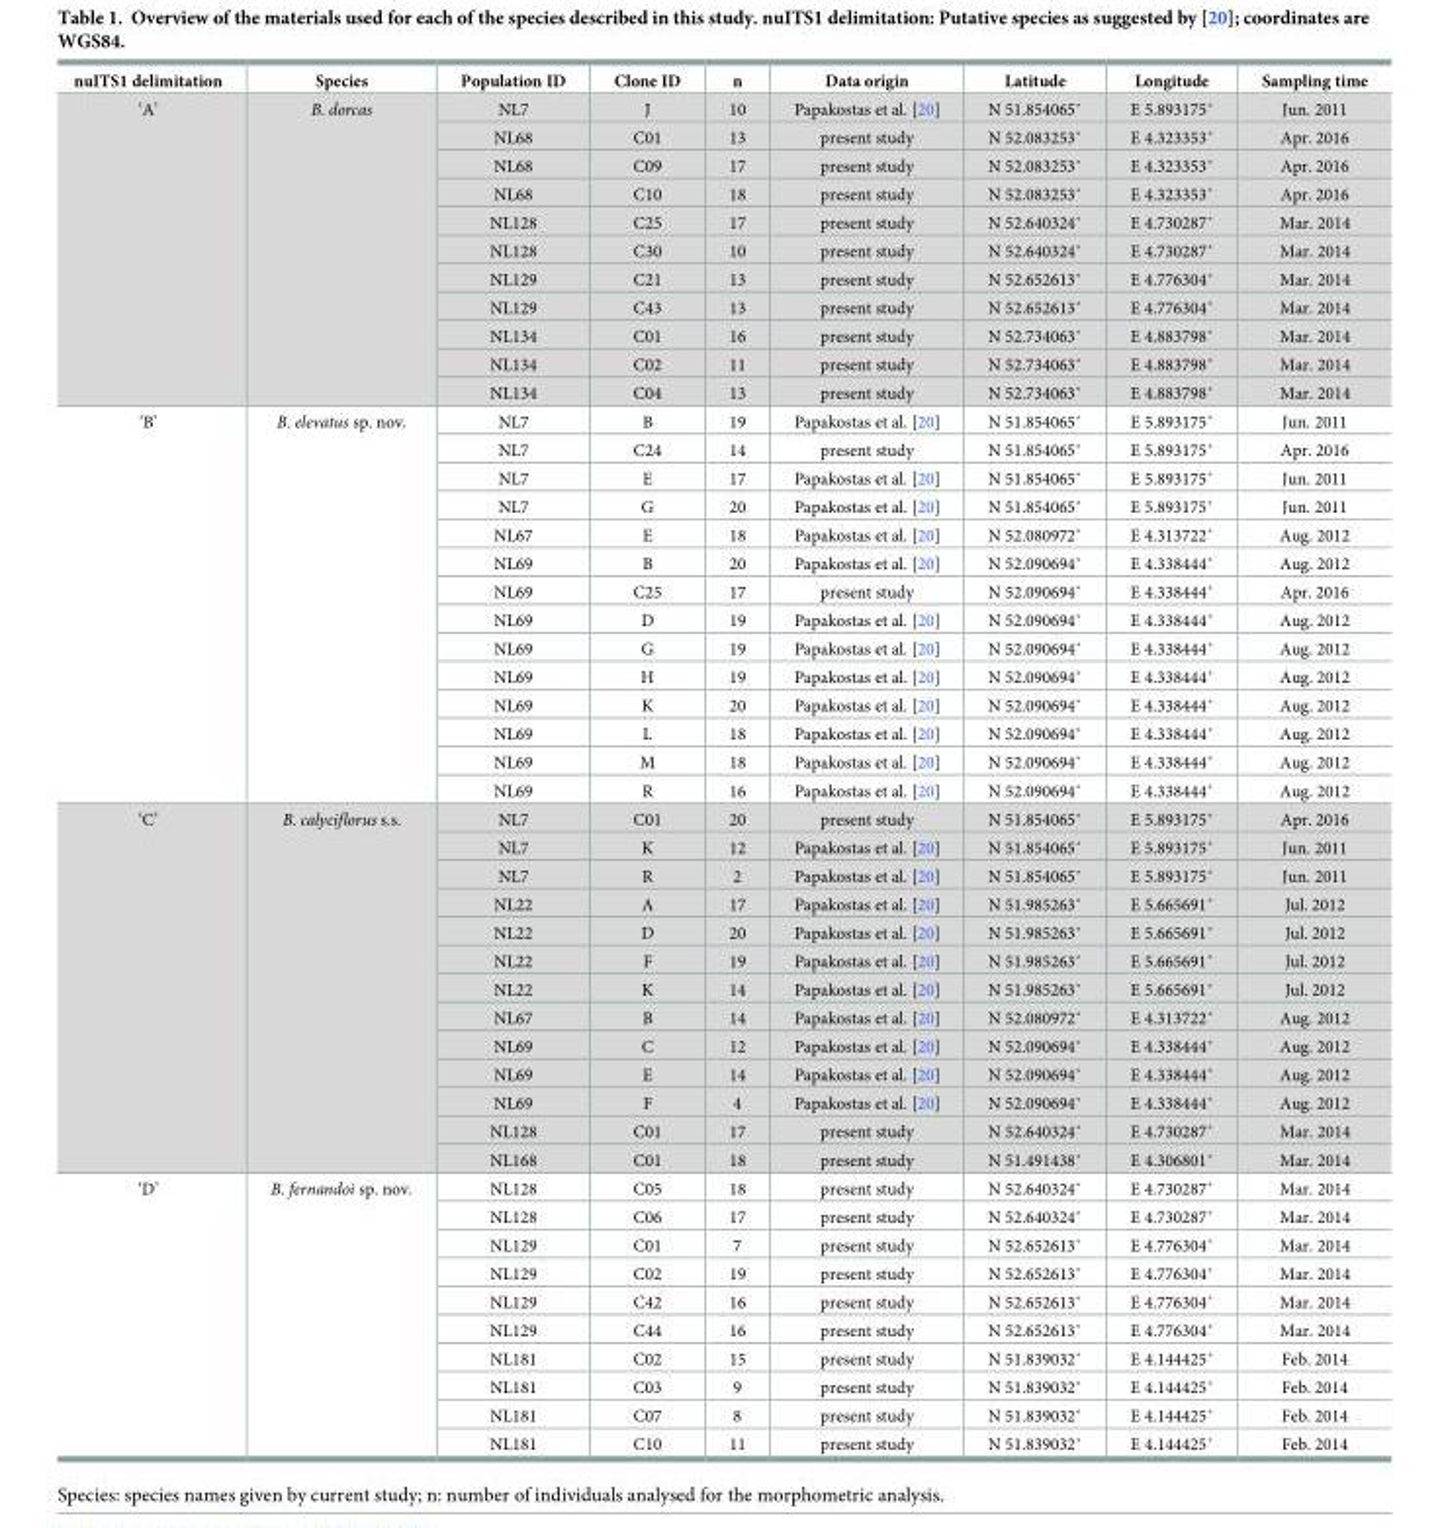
<table><thead><tr><td>nuITS1 delimitation</td><td>Species</td><td>Population ID</td><td>Clone ID</td><td>n</td><td>Data origin</td><td>Latitude</td><td>Longitude</td><td>Sampling time</td></tr></thead><tbody><tr><td rowspan="11">‘A’</td><td rowspan="11">B. dorcas</td><td>NL7</td><td>J</td><td>10</td><td>Papakostas et al. [20]</td><td>N 51.854065˚</td><td>E 5.893175˚</td><td>Jun. 2011</td></tr><tr><td>NL68</td><td>C01</td><td>13</td><td>present study</td><td>N 52.083253˚</td><td>E 4.323353˚</td><td>Apr. 2016</td></tr><tr><td>NL68</td><td>C09</td><td>17</td><td>present study</td><td>N 52.083253˚</td><td>E 4.323353˚</td><td>Apr. 2016</td></tr><tr><td>NL68</td><td>C10</td><td>18</td><td>present study</td><td>N 52.083253˚</td><td>E 4.323353˚</td><td>Apr. 2016</td></tr><tr><td>NL128</td><td>C25</td><td>17</td><td>present study</td><td>N 52.640324˚</td><td>E 4.730287˚</td><td>Mar. 2014</td></tr><tr><td>NL128</td><td>C30</td><td>10</td><td>present study</td><td>N 52.640324˚</td><td>E 4.730287˚</td><td>Mar. 2014</td></tr><tr><td>NL129</td><td>C21</td><td>13</td><td>present study</td><td>N 52.652613˚</td><td>E 4.776304˚</td><td>Mar. 2014</td></tr><tr><td>NL129</td><td>C43</td><td>13</td><td>present study</td><td>N 52.652613˚</td><td>E 4.776304˚</td><td>Mar. 2014</td></tr><tr><td>NL134</td><td>C01</td><td>16</td><td>present study</td><td>N 52.734063˚</td><td>E 4.883798˚</td><td>Mar. 2014</td></tr><tr><td>NL134</td><td>C02</td><td>11</td><td>present study</td><td>N 52.734063˚</td><td>E 4.883798˚</td><td>Mar. 2014</td></tr><tr><td>NL134</td><td>C04</td><td>13</td><td>present study</td><td>N 52.734063˚</td><td>E 4.883798˚</td><td>Mar. 2014</td></tr><tr><td rowspan="14">‘B’</td><td rowspan="14">B. elevatus sp. nov.</td><td>NL7</td><td>B</td><td>19</td><td>Papakostas et al. [20]</td><td>N 51.854065˚</td><td>E 5.893175˚</td><td>Jun. 2011</td></tr><tr><td>NL7</td><td>C24</td><td>14</td><td>present study</td><td>N 51.854065˚</td><td>E 5.893175˚</td><td>Apr. 2016</td></tr><tr><td>NL7</td><td>E</td><td>17</td><td>Papakostas et al. [20]</td><td>N 51.854065˚</td><td>E 5.893175˚</td><td>Jun. 2011</td></tr><tr><td>NL7</td><td>G</td><td>20</td><td>Papakostas et al. [20]</td><td>N 51.854065˚</td><td>E 5.893175˚</td><td>Jun. 2011</td></tr><tr><td>NL67</td><td>E</td><td>18</td><td>Papakostas et al. [20]</td><td>N 52.080972˚</td><td>E 4.313722˚</td><td>Aug. 2012</td></tr><tr><td>NL69</td><td>B</td><td>20</td><td>Papakostas et al. [20]</td><td>N 52.090694˚</td><td>E 4.338444˚</td><td>Aug. 2012</td></tr><tr><td>NL69</td><td>C25</td><td>17</td><td>present study</td><td>N 52.090694˚</td><td>E 4.338444˚</td><td>Apr. 2016</td></tr><tr><td>NL69</td><td>D</td><td>19</td><td>Papakostas et al. [20]</td><td>N 52.090694˚</td><td>E 4.338444˚</td><td>Aug. 2012</td></tr><tr><td>NL69</td><td>G</td><td>19</td><td>Papakostas et al. [20]</td><td>N 52.090694˚</td><td>E 4.338444˚</td><td>Aug. 2012</td></tr><tr><td>NL69</td><td>H</td><td>19</td><td>Papakostas et al. [20]</td><td>N 52.090694˚</td><td>E 4.338444˚</td><td>Aug. 2012</td></tr><tr><td>NL69</td><td>K</td><td>20</td><td>Papakostas et al. [20]</td><td>N 52.090694˚</td><td>E 4.338444˚</td><td>Aug. 2012</td></tr><tr><td>NL69</td><td>L</td><td>18</td><td>Papakostas et al. [20]</td><td>N 52.090694˚</td><td>E 4.338444˚</td><td>Aug. 2012</td></tr><tr><td>NL69</td><td>M</td><td>18</td><td>Papakostas et al. [20]</td><td>N 52.090694˚</td><td>E 4.338444˚</td><td>Aug. 2012</td></tr><tr><td>NL69</td><td>R</td><td>16</td><td>Papakostas et al. [20]</td><td>N 52.090694˚</td><td>E 4.338444˚</td><td>Aug. 2012</td></tr><tr><td rowspan="13">‘C’</td><td rowspan="13">B. calyciflorus s.s.</td><td>NL7</td><td>C01</td><td>20</td><td>present study</td><td>N 51.854065˚</td><td>E 5.893175˚</td><td>Apr. 2016</td></tr><tr><td>NL7</td><td>K</td><td>12</td><td>Papakostas et al. [20]</td><td>N 51.854065˚</td><td>E 5.893175˚</td><td>Jun. 2011</td></tr><tr><td>NL7</td><td>R</td><td>2</td><td>Papakostas et al. [20]</td><td>N 51.854065˚</td><td>E 5.893175˚</td><td>Jun. 2011</td></tr><tr><td>NL22</td><td>A</td><td>17</td><td>Papakostas et al. [20]</td><td>N 51.985263˚</td><td>E 5.665691˚</td><td>Jul. 2012</td></tr><tr><td>NL22</td><td>D</td><td>20</td><td>Papakostas et al. [20]</td><td>N 51.985263˚</td><td>E 5.665691˚</td><td>Jul. 2012</td></tr><tr><td>NL22</td><td>F</td><td>19</td><td>Papakostas et al. [20]</td><td>N 51.985263˚</td><td>E 5.665691˚</td><td>Jul. 2012</td></tr><tr><td>NL22</td><td>K</td><td>14</td><td>Papakostas et al. [20]</td><td>N 51.985263˚</td><td>E 5.665691˚</td><td>Jul. 2012</td></tr><tr><td>NL67</td><td>B</td><td>14</td><td>Papakostas et al. [20]</td><td>N 52.080972˚</td><td>E 4.313722˚</td><td>Aug. 2012</td></tr><tr><td>NL69</td><td>C</td><td>12</td><td>Papakostas et al. [20]</td><td>N 52.090694˚</td><td>E 4.338444˚</td><td>Aug. 2012</td></tr><tr><td>NL69</td><td>E</td><td>14</td><td>Papakostas et al. [20]</td><td>N 52.090694˚</td><td>E 4.338444˚</td><td>Aug. 2012</td></tr><tr><td>NL69</td><td>F</td><td>4</td><td>Papakostas et al. [20]</td><td>N 52.090694˚</td><td>E 4.338444˚</td><td>Aug. 2012</td></tr><tr><td>NL128</td><td>C01</td><td>17</td><td>present study</td><td>N 52.640324˚</td><td>E 4.730287˚</td><td>Mar. 2014</td></tr><tr><td>NL168</td><td>C01</td><td>18</td><td>present study</td><td>N 51.491438˚</td><td>E 4.306801˚</td><td>Mar. 2014</td></tr><tr><td rowspan="10">‘D’</td><td rowspan="10">B. fernandoi sp. nov.</td><td>NL128</td><td>C05</td><td>18</td><td>present study</td><td>N 52.640324˚</td><td>E 4.730287˚</td><td>Mar. 2014</td></tr><tr><td>NL128</td><td>C06</td><td>17</td><td>present study</td><td>N 52.640324˚</td><td>E 4.730287˚</td><td>Mar. 2014</td></tr><tr><td>NL129</td><td>C01</td><td>7</td><td>present study</td><td>N 52.652613˚</td><td>E 4.776304˚</td><td>Mar. 2014</td></tr><tr><td>NL129</td><td>C02</td><td>19</td><td>present study</td><td>N 52.652613˚</td><td>E 4.776304˚</td><td>Mar. 2014</td></tr><tr><td>NL129</td><td>C42</td><td>16</td><td>present study</td><td>N 52.652613˚</td><td>E 4.776304˚</td><td>Mar. 2014</td></tr><tr><td>NL129</td><td>C44</td><td>16</td><td>present study</td><td>N 52.652613˚</td><td>E 4.776304˚</td><td>Mar. 2014</td></tr><tr><td>NL181</td><td>C02</td><td>15</td><td>present study</td><td>N 51.839032˚</td><td>E 4.144425˚</td><td>Feb. 2014</td></tr><tr><td>NL181</td><td>C03</td><td>9</td><td>present study</td><td>N 51.839032˚</td><td>E 4.144425˚</td><td>Feb. 2014</td></tr><tr><td>NL181</td><td>C07</td><td>8</td><td>present study</td><td>N 51.839032˚</td><td>E 4.144425˚</td><td>Feb. 2014</td></tr><tr><td>NL181</td><td>C10</td><td>11</td><td>present study</td><td>N 51.839032˚</td><td>E 4.144425˚</td><td>Feb. 2014</td></tr></tbody></table>